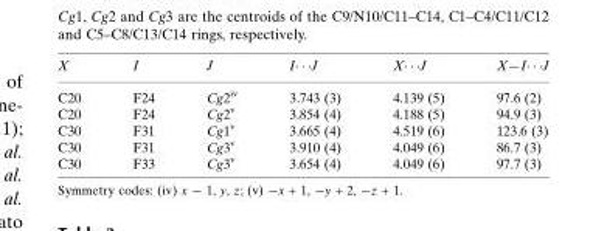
<table><thead><tr><td>X</td><td>I</td><td>J</td><td>I� � �J</td><td>X� � �J</td><td>X—I� � �J</td></tr></thead><tbody><tr><td>C20</td><td>F24</td><td>Cg2<sup>iv</sup></td><td>3.743 (3)</td><td>4.139 (5)</td><td>97.6 (2)</td></tr><tr><td>C20</td><td>F24</td><td>Cg2<sup>v</sup></td><td>3.854 (4)</td><td>4.188 (5)</td><td>94.9 (3)</td></tr><tr><td>C30</td><td>F31</td><td>Cg1<sup>v</sup></td><td>3.665 (4)</td><td>4.519 (6)</td><td>123.6 (3)</td></tr><tr><td>C30</td><td>F31</td><td>Cg3<sup>v</sup></td><td>3.910 (4)</td><td>4.049 (6)</td><td>86.7 (3)</td></tr><tr><td>C30</td><td>F33</td><td>Cg3<sup>v</sup></td><td>3.654 (4)</td><td>4.049 (6)</td><td>97.7 (3)</td></tr></tbody></table>